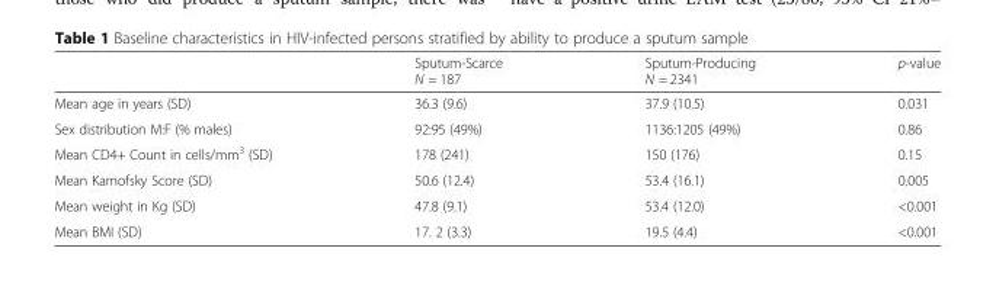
<table><thead><tr><td></td><td>Sputum-Scarce N = 187</td><td>Sputum-Producing N = 2341</td><td>p-value</td></tr></thead><tbody><tr><td>Mean age in years (SD)</td><td>36.3 (9.6)</td><td>37.9 (10.5)</td><td>0.031</td></tr><tr><td>Sex distribution M:F (% males)</td><td>92:95 (49%)</td><td>1136:1205 (49%)</td><td>0.86</td></tr><tr><td>Mean CD4+ Count in cells/mm<sup>3</sup> (SD)</td><td>178 (241)</td><td>150 (176)</td><td>0.15</td></tr><tr><td>Mean Karnofsky Score (SD)</td><td>50.6 (12.4)</td><td>53.4 (16.1)</td><td>0.005</td></tr><tr><td>Mean weight in Kg (SD)</td><td>47.8 (9.1)</td><td>53.4 (12.0)</td><td>&lt;0.001</td></tr><tr><td>Mean BMI (SD)</td><td>17. 2 (3.3)</td><td>19.5 (4.4)</td><td>&lt;0.001</td></tr></tbody></table>